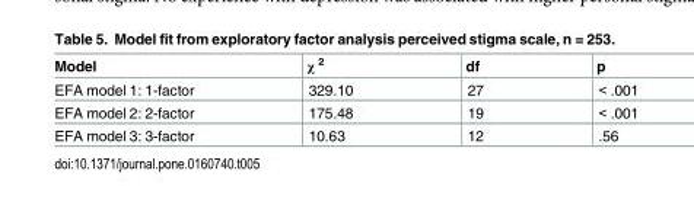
<table><thead><tr><td>Model</td><td>χ <sup>2</sup></td><td>df</td><td>p</td></tr></thead><tbody><tr><td>EFA model 1: 1-factor</td><td>329.10</td><td>27</td><td>&lt; .001</td></tr><tr><td>EFA model 2: 2-factor</td><td>175.48</td><td>19</td><td>&lt; .001</td></tr><tr><td>EFA model 3: 3-factor</td><td>10.63</td><td>12</td><td>.56</td></tr></tbody></table>